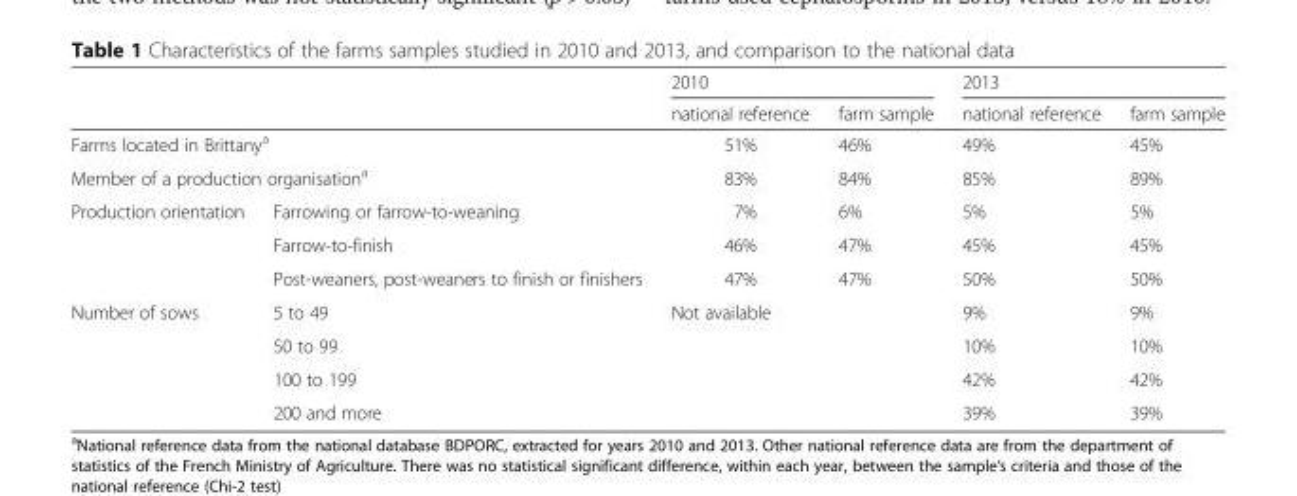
<table><thead><tr><td rowspan="2"></td><td rowspan="2"></td><td colspan="2">2010</td><td colspan="2">2013</td></tr><tr><td>national reference</td><td>farm sample</td><td>national reference</td><td>farm sample</td></tr></thead><tbody><tr><td colspan="2">Farms located in Brittany<sup>a</sup></td><td>51%</td><td>46%</td><td>49%</td><td>45%</td></tr><tr><td colspan="2">Member of a production organisation<sup>a</sup></td><td>83%</td><td>84%</td><td>85%</td><td>89%</td></tr><tr><td rowspan="3">Production orientation</td><td>Farrowing or farrow-to-weaning</td><td>7%</td><td>6%</td><td>5%</td><td>5%</td></tr><tr><td>Farrow-to-finish</td><td>46%</td><td>47%</td><td>45%</td><td>45%</td></tr><tr><td>Post-weaners, post-weaners to finish or finishers</td><td>47%</td><td>47%</td><td>50%</td><td>50%</td></tr><tr><td rowspan="4">Number of sows</td><td>5 to 49</td><td rowspan="4" colspan="2">Not available</td><td>9%</td><td>9%</td></tr><tr><td>50 to 99</td><td>10%</td><td>10%</td></tr><tr><td>100 to 199</td><td>42%</td><td>42%</td></tr><tr><td>200 and more</td><td>39%</td><td>39%</td></tr></tbody></table>